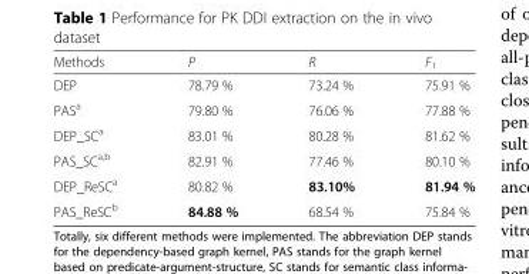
<table><thead><tr><td>Methods</td><td>P</td><td>R</td><td>F<sub>1</sub></td></tr></thead><tbody><tr><td>DEP</td><td>78.79 %</td><td>73.24 %</td><td>75.91 %</td></tr><tr><td>PAS<sup>a</sup></td><td>79.80 %</td><td>76.06 %</td><td>77.88 %</td></tr><tr><td>DEP_SC<sup>a</sup></td><td>83.01 %</td><td>80.28 %</td><td>81.62 %</td></tr><tr><td>PAS_SC<sup>a,b</sup></td><td>82.91 %</td><td>77.46 %</td><td>80.10 %</td></tr><tr><td>DEP_ReSC<sup>a</sup></td><td>80.82 %</td><td>83.10%</td><td>81.94 %</td></tr><tr><td>PAS_ReSC<sup>b</sup></td><td>84.88 %</td><td>68.54 %</td><td>75.84 %</td></tr></tbody></table>